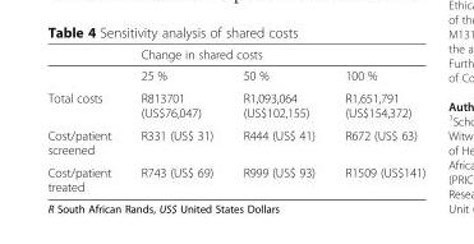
<table><thead><tr><td rowspan="2"></td><td colspan="3">Change in shared costs</td></tr><tr><td>25 %</td><td>50 %</td><td>100 %</td></tr></thead><tbody><tr><td>Total costs</td><td>R813701 (US$76,047)</td><td>R1,093,064 (US$102,155)</td><td>R1,651,791 (US$154,372)</td></tr><tr><td>Cost/patient screened</td><td>R331 (US$ 31)</td><td>R444 (US$ 41)</td><td>R672 (US$ 63)</td></tr><tr><td>Cost/patient treated</td><td>R743 (US$ 69)</td><td>R999 (US$ 93)</td><td>R1509 (US$141)</td></tr></tbody></table>